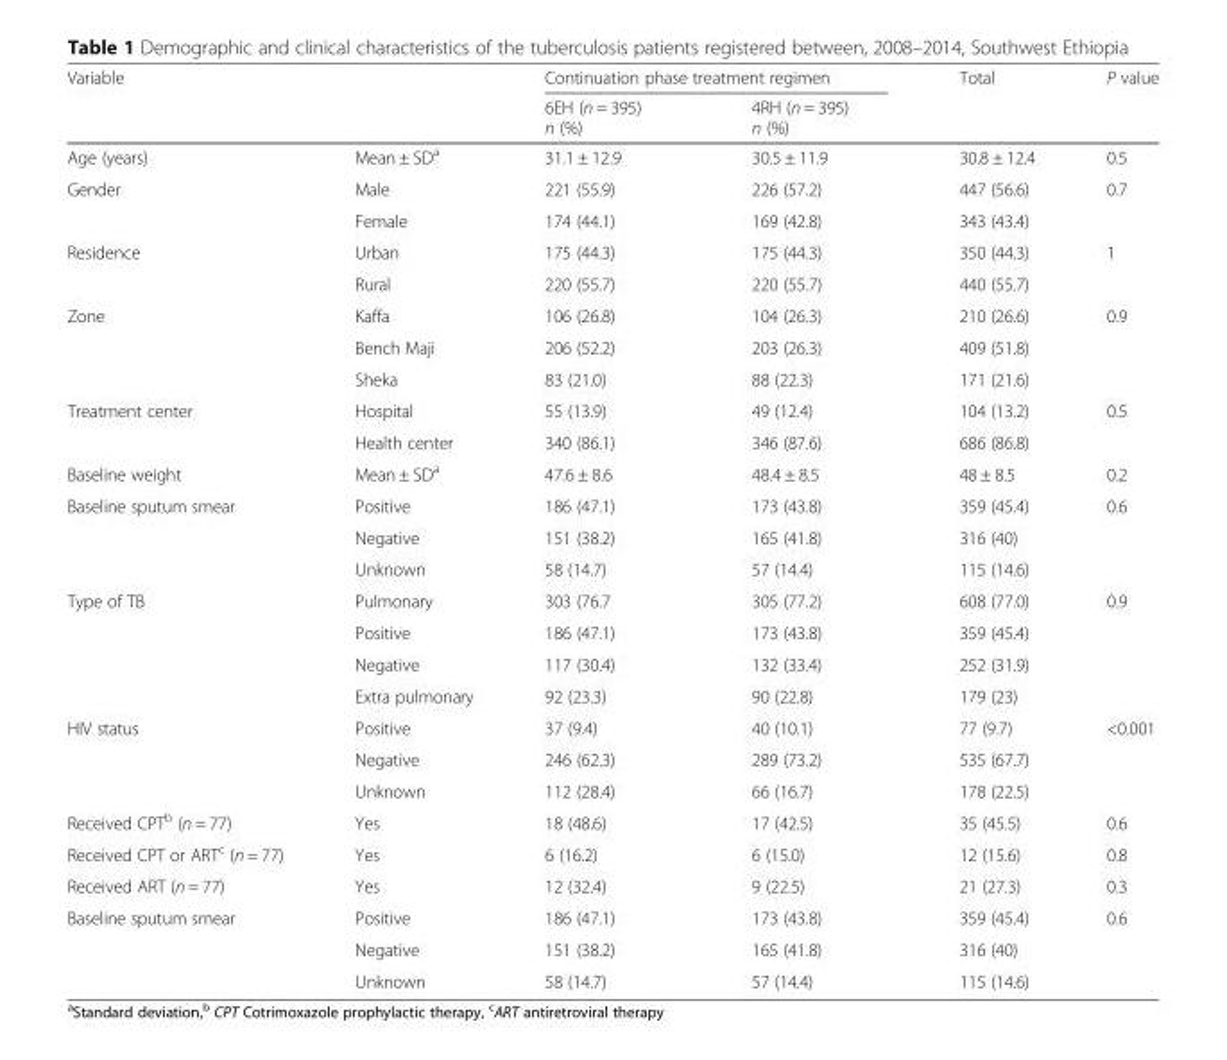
<table><thead><tr><td rowspan="2" colspan="2">Variable</td><td colspan="2">Continuation phase treatment regimen</td><td rowspan="3">Total 30.8 ± 12.4</td><td rowspan="3">P value 0.5</td></tr><tr><td rowspan="2">6EH (n = 395) n (%) 31.1 ± 12.9</td><td rowspan="2">4RH (n = 395) n (%) 30.5 ± 11.9</td></tr><tr><td>Age (years)</td><td>Mean ± SD<sup>a</sup></td></tr></thead><tbody><tr><td rowspan="2">Gender</td><td>Male</td><td>221 (55.9)</td><td>226 (57.2)</td><td>447 (56.6)</td><td rowspan="2">0.7</td></tr><tr><td>Female</td><td>174 (44.1)</td><td>169 (42.8)</td><td>343 (43.4)</td></tr><tr><td rowspan="2">Residence</td><td>Urban</td><td>175 (44.3)</td><td>175 (44.3)</td><td>350 (44.3)</td><td rowspan="2">1</td></tr><tr><td>Rural</td><td>220 (55.7)</td><td>220 (55.7)</td><td>440 (55.7)</td></tr><tr><td rowspan="3">Zone</td><td>Kaffa</td><td>106 (26.8)</td><td>104 (26.3)</td><td>210 (26.6)</td><td rowspan="3">0.9</td></tr><tr><td>Bench Maji</td><td>206 (52.2)</td><td>203 (26.3)</td><td>409 (51.8)</td></tr><tr><td>Sheka</td><td>83 (21.0)</td><td>88 (22.3)</td><td>171 (21.6)</td></tr><tr><td rowspan="2">Treatment center</td><td>Hospital</td><td>55 (13.9)</td><td>49 (12.4)</td><td>104 (13.2)</td><td rowspan="2">0.5</td></tr><tr><td>Health center</td><td>340 (86.1)</td><td>346 (87.6)</td><td>686 (86.8)</td></tr><tr><td>Baseline weight</td><td>Mean ± SD<sup>a</sup></td><td>47.6 ± 8.6</td><td>48.4 ± 8.5</td><td>48 ± 8.5</td><td>0.2</td></tr><tr><td rowspan="3">Baseline sputum smear</td><td>Positive</td><td>186 (47.1)</td><td>173 (43.8)</td><td>359 (45.4)</td><td rowspan="3">0.6</td></tr><tr><td>Negative</td><td>151 (38.2)</td><td>165 (41.8)</td><td>316 (40)</td></tr><tr><td>Unknown</td><td>58 (14.7)</td><td>57 (14.4)</td><td>115 (14.6)</td></tr><tr><td rowspan="4">Type of TB</td><td>Pulmonary</td><td>303 (76.7</td><td>305 (77.2)</td><td>608 (77.0)</td><td rowspan="4">0.9</td></tr><tr><td>Positive</td><td>186 (47.1)</td><td>173 (43.8)</td><td>359 (45.4)</td></tr><tr><td>Negative</td><td>117 (30.4)</td><td>132 (33.4)</td><td>252 (31.9)</td></tr><tr><td>Extra pulmonary</td><td>92 (23.3)</td><td>90 (22.8)</td><td>179 (23)</td></tr><tr><td rowspan="3">HIV status</td><td>Positive</td><td>37 (9.4)</td><td>40 (10.1)</td><td>77 (9.7)</td><td rowspan="3">&lt;0.001</td></tr><tr><td>Negative</td><td>246 (62.3)</td><td>289 (73.2)</td><td>535 (67.7)</td></tr><tr><td>Unknown</td><td>112 (28.4)</td><td>66 (16.7)</td><td>178 (22.5)</td></tr><tr><td>Received CPT<sup>b</sup> (n = 77)</td><td>Yes</td><td>18 (48.6)</td><td>17 (42.5)</td><td>35 (45.5)</td><td>0.6</td></tr><tr><td>Received CPT or ART<sup>c</sup> (n = 77)</td><td>Yes</td><td>6 (16.2)</td><td>6 (15.0)</td><td>12 (15.6)</td><td>0.8</td></tr><tr><td>Received ART (n = 77)</td><td>Yes</td><td>12 (32.4)</td><td>9 (22.5)</td><td>21 (27.3)</td><td>0.3</td></tr><tr><td rowspan="3">Baseline sputum smear</td><td>Positive</td><td>186 (47.1)</td><td>173 (43.8)</td><td>359 (45.4)</td><td rowspan="3">0.6</td></tr><tr><td>Negative</td><td>151 (38.2)</td><td>165 (41.8)</td><td>316 (40)</td></tr><tr><td>Unknown</td><td>58 (14.7)</td><td>57 (14.4)</td><td>115 (14.6)</td></tr></tbody></table>